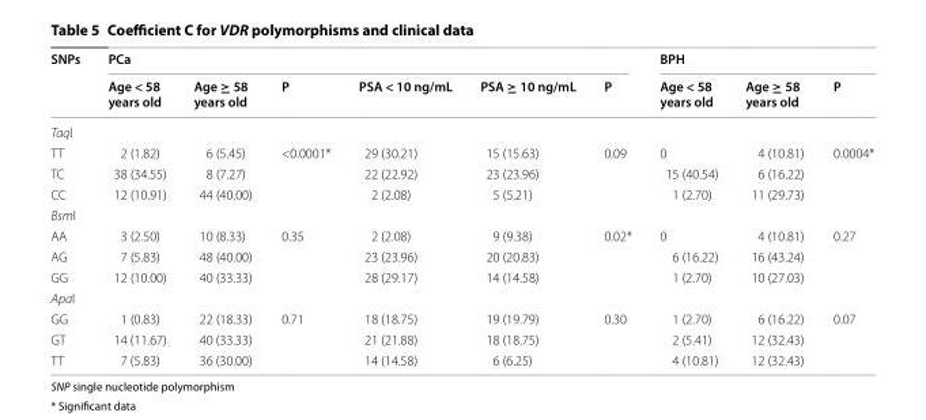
<table><thead><tr><td rowspan="2">SNPs</td><td colspan="6">PCa</td><td colspan="3">BPH</td></tr><tr><td>Age &lt; 58 years old</td><td>Age ≥ 58 years old</td><td>P</td><td>PSA &lt; 10 ng/mL</td><td>PSA ≥ 10 ng/mL</td><td>P</td><td>Age &lt; 58 years old</td><td>Age ≥ 58 years old</td><td>P</td></tr></thead><tbody><tr><td colspan="10">TaqI</td></tr><tr><td>TT</td><td>2 (1.82)</td><td>6 (5.45)</td><td>&lt;0.0001*</td><td>29 (30.21)</td><td>15 (15.63)</td><td>0.09</td><td>0</td><td>4 (10.81)</td><td>0.0004*</td></tr><tr><td>TC</td><td>38 (34.55)</td><td>8 (7.27)</td><td></td><td>22 (22.92)</td><td>23 (23.96)</td><td></td><td>15 (40.54)</td><td>6 (16.22)</td><td></td></tr><tr><td>CC</td><td>12 (10.91)</td><td>44 (40.00)</td><td></td><td>2 (2.08)</td><td>5 (5.21)</td><td></td><td>1 (2.70)</td><td>11 (29.73)</td><td></td></tr><tr><td colspan="10">BsmI</td></tr><tr><td>AA</td><td>3 (2.50)</td><td>10 (8.33)</td><td>0.35</td><td>2 (2.08)</td><td>9 (9.38)</td><td>0.02*</td><td>0</td><td>4 (10.81)</td><td>0.27</td></tr><tr><td>AG</td><td>7 (5.83)</td><td>48 (40.00)</td><td></td><td>23 (23.96)</td><td>20 (20.83)</td><td></td><td>6 (16.22)</td><td>16 (43.24)</td><td></td></tr><tr><td>GG</td><td>12 (10.00)</td><td>40 (33.33)</td><td></td><td>28 (29.17)</td><td>14 (14.58)</td><td></td><td>1 (2.70)</td><td>10 (27.03)</td><td></td></tr><tr><td colspan="10">ApaI</td></tr><tr><td>GG</td><td>1 (0.83)</td><td>22 (18.33)</td><td>0.71</td><td>18 (18.75)</td><td>19 (19.79)</td><td>0.30</td><td>1 (2.70)</td><td>6 (16.22)</td><td>0.07</td></tr><tr><td>GT</td><td>14 (11.67)</td><td>40 (33.33)</td><td></td><td>21 (21.88)</td><td>18 (18.75)</td><td></td><td>2 (5.41)</td><td>12 (32.43)</td><td></td></tr><tr><td>TT</td><td>7 (5.83)</td><td>36 (30.00)</td><td></td><td>14 (14.58)</td><td>6 (6.25)</td><td></td><td>4 (10.81)</td><td>12 (32.43)</td><td></td></tr></tbody></table>